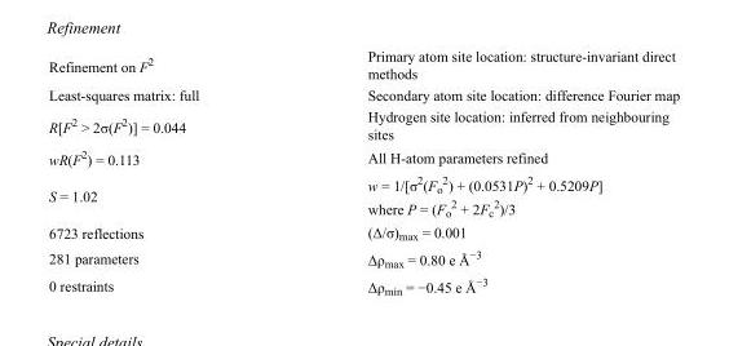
<table><tbody><tr><td>Refinement on F<sup>2</sup></td><td>Primary atom site location: structure-invariant direct methods</td></tr><tr><td>Least-squares matrix: full</td><td>Secondary atom site location: difference Fourier map</td></tr><tr><td>R[F<sup>2</sup> &gt; 2σ(F<sup>2</sup>)] = 0.044</td><td>Hydrogen site location: inferred from neighbouring sites</td></tr><tr><td>wR(F<sup>2</sup>) = 0.113</td><td>All H-atom parameters refined</td></tr><tr><td>S = 1.02</td><td>w = 1/[σ<sup>2</sup>(F<sub>o</sub> <sup>2</sup>) + (0.0531P)<sup>2</sup> + 0.5209P] where P = (F<sub>o</sub> <sup>2</sup> + 2F<sub>c</sub> <sup>2</sup>)/3</td></tr><tr><td>6723 reflections</td><td>(Δ/σ)<sub>max</sub> = 0.001</td></tr><tr><td>281 parameters</td><td>Δρ<sub>max</sub> = 0.80 e Å<sup>−3</sup></td></tr><tr><td>0 restraints</td><td>Δρ<sub>min</sub> = −0.45 e Å<sup>−3</sup></td></tr></tbody></table>